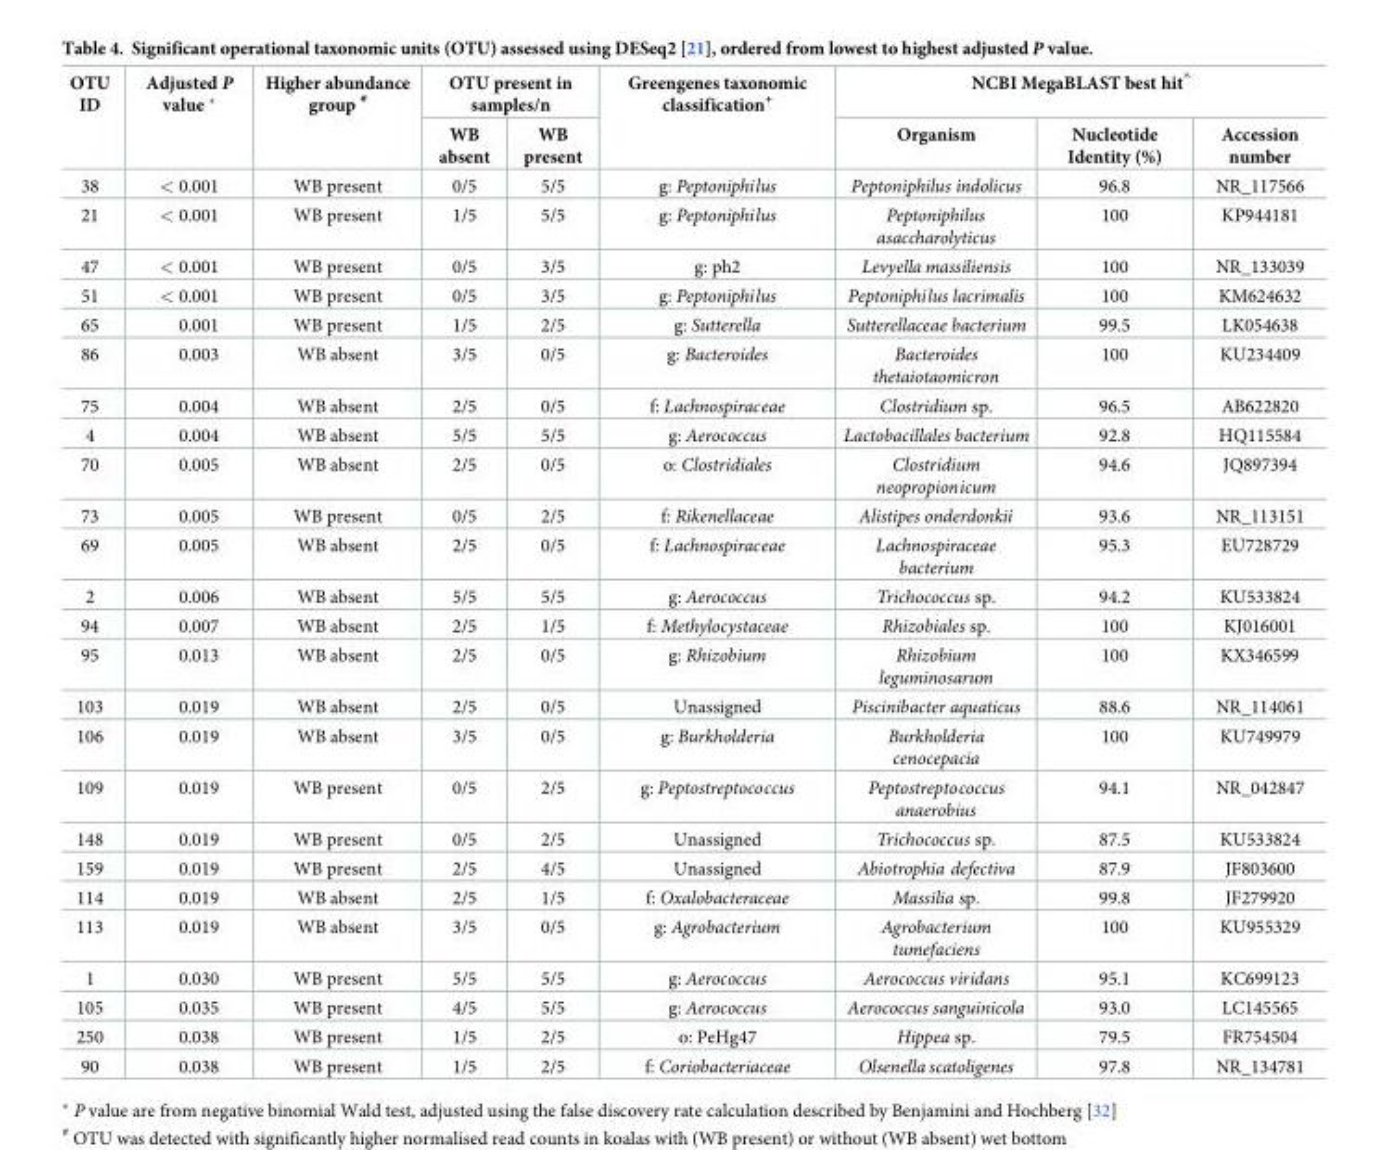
<table><thead><tr><td rowspan="2">OTU ID</td><td rowspan="2">Adjusted P value *</td><td rowspan="2">Higher abundance group <sup>#</sup></td><td colspan="2">OTU present in samples/n</td><td rowspan="2">Greengenes taxonomic classification<sup>+</sup></td><td colspan="3">NCBI MegaBLAST best hit<sup>^</sup></td></tr><tr><td>WB absent</td><td>WB present</td><td>Organism</td><td>Nucleotide Identity (%)</td><td>Accession number</td></tr></thead><tbody><tr><td>38</td><td>&lt; 0.001</td><td>WB present</td><td>0/5</td><td>5/5</td><td>g: Peptoniphilus</td><td>Peptoniphilus indolicus</td><td>96.8</td><td>NR_117566</td></tr><tr><td>21</td><td>&lt; 0.001</td><td>WB present</td><td>1/5</td><td>5/5</td><td>g: Peptoniphilus</td><td>Peptoniphilus asaccharolyticus</td><td>100</td><td>KP944181</td></tr><tr><td>47</td><td>&lt; 0.001</td><td>WB present</td><td>0/5</td><td>3/5</td><td>g: ph2</td><td>Levyella massiliensis</td><td>100</td><td>NR_133039</td></tr><tr><td>51</td><td>&lt; 0.001</td><td>WB present</td><td>0/5</td><td>3/5</td><td>g: Peptoniphilus</td><td>Peptoniphilus lacrimalis</td><td>100</td><td>KM624632</td></tr><tr><td>65</td><td>0.001</td><td>WB present</td><td>1/5</td><td>2/5</td><td>g: Sutterella</td><td>Sutterellaceae bacterium</td><td>99.5</td><td>LK054638</td></tr><tr><td>86</td><td>0.003</td><td>WB absent</td><td>3/5</td><td>0/5</td><td>g: Bacteroides</td><td>Bacteroides thetaiotaomicron</td><td>100</td><td>KU234409</td></tr><tr><td>75</td><td>0.004</td><td>WB absent</td><td>2/5</td><td>0/5</td><td>f: Lachnospiraceae</td><td>Clostridium sp.</td><td>96.5</td><td>AB622820</td></tr><tr><td>4</td><td>0.004</td><td>WB absent</td><td>5/5</td><td>5/5</td><td>g: Aerococcus</td><td>Lactobacillales bacterium</td><td>92.8</td><td>HQ115584</td></tr><tr><td>70</td><td>0.005</td><td>WB absent</td><td>2/5</td><td>0/5</td><td>o: Clostridiales</td><td>Clostridium neopropionicum</td><td>94.6</td><td>JQ897394</td></tr><tr><td>73</td><td>0.005</td><td>WB present</td><td>0/5</td><td>2/5</td><td>f: Rikenellaceae</td><td>Alistipes onderdonkii</td><td>93.6</td><td>NR_113151</td></tr><tr><td>69</td><td>0.005</td><td>WB absent</td><td>2/5</td><td>0/5</td><td>f: Lachnospiraceae</td><td>Lachnospiraceae bacterium</td><td>95.3</td><td>EU728729</td></tr><tr><td>2</td><td>0.006</td><td>WB absent</td><td>5/5</td><td>5/5</td><td>g: Aerococcus</td><td>Trichococcus sp.</td><td>94.2</td><td>KU533824</td></tr><tr><td>94</td><td>0.007</td><td>WB absent</td><td>2/5</td><td>1/5</td><td>f: Methylocystaceae</td><td>Rhizobiales sp.</td><td>100</td><td>KJ016001</td></tr><tr><td>95</td><td>0.013</td><td>WB absent</td><td>2/5</td><td>0/5</td><td>g: Rhizobium</td><td>Rhizobium leguminosarum</td><td>100</td><td>KX346599</td></tr><tr><td>103</td><td>0.019</td><td>WB absent</td><td>2/5</td><td>0/5</td><td>Unassigned</td><td>Piscinibacter aquaticus</td><td>88.6</td><td>NR_114061</td></tr><tr><td>106</td><td>0.019</td><td>WB absent</td><td>3/5</td><td>0/5</td><td>g: Burkholderia</td><td>Burkholderia cenocepacia</td><td>100</td><td>KU749979</td></tr><tr><td>109</td><td>0.019</td><td>WB present</td><td>0/5</td><td>2/5</td><td>g: Peptostreptococcus</td><td>Peptostreptococcus anaerobius</td><td>94.1</td><td>NR_042847</td></tr><tr><td>148</td><td>0.019</td><td>WB present</td><td>0/5</td><td>2/5</td><td>Unassigned</td><td>Trichococcus sp.</td><td>87.5</td><td>KU533824</td></tr><tr><td>159</td><td>0.019</td><td>WB present</td><td>2/5</td><td>4/5</td><td>Unassigned</td><td>Abiotrophia defectiva</td><td>87.9</td><td>JF803600</td></tr><tr><td>114</td><td>0.019</td><td>WB absent</td><td>2/5</td><td>1/5</td><td>f: Oxalobacteraceae</td><td>Massilia sp.</td><td>99.8</td><td>JF279920</td></tr><tr><td>113</td><td>0.019</td><td>WB absent</td><td>3/5</td><td>0/5</td><td>g: Agrobacterium</td><td>Agrobacterium tumefaciens</td><td>100</td><td>KU955329</td></tr><tr><td>1</td><td>0.030</td><td>WB present</td><td>5/5</td><td>5/5</td><td>g: Aerococcus</td><td>Aerococcus viridans</td><td>95.1</td><td>KC699123</td></tr><tr><td>105</td><td>0.035</td><td>WB present</td><td>4/5</td><td>5/5</td><td>g: Aerococcus</td><td>Aerococcus sanguinicola</td><td>93.0</td><td>LC145565</td></tr><tr><td>250</td><td>0.038</td><td>WB present</td><td>1/5</td><td>2/5</td><td>o: PeHg47</td><td>Hippea sp.</td><td>79.5</td><td>FR754504</td></tr><tr><td>90</td><td>0.038</td><td>WB present</td><td>1/5</td><td>2/5</td><td>f: Coriobacteriaceae</td><td>Olsenella scatoligenes</td><td>97.8</td><td>NR_134781</td></tr></tbody></table>